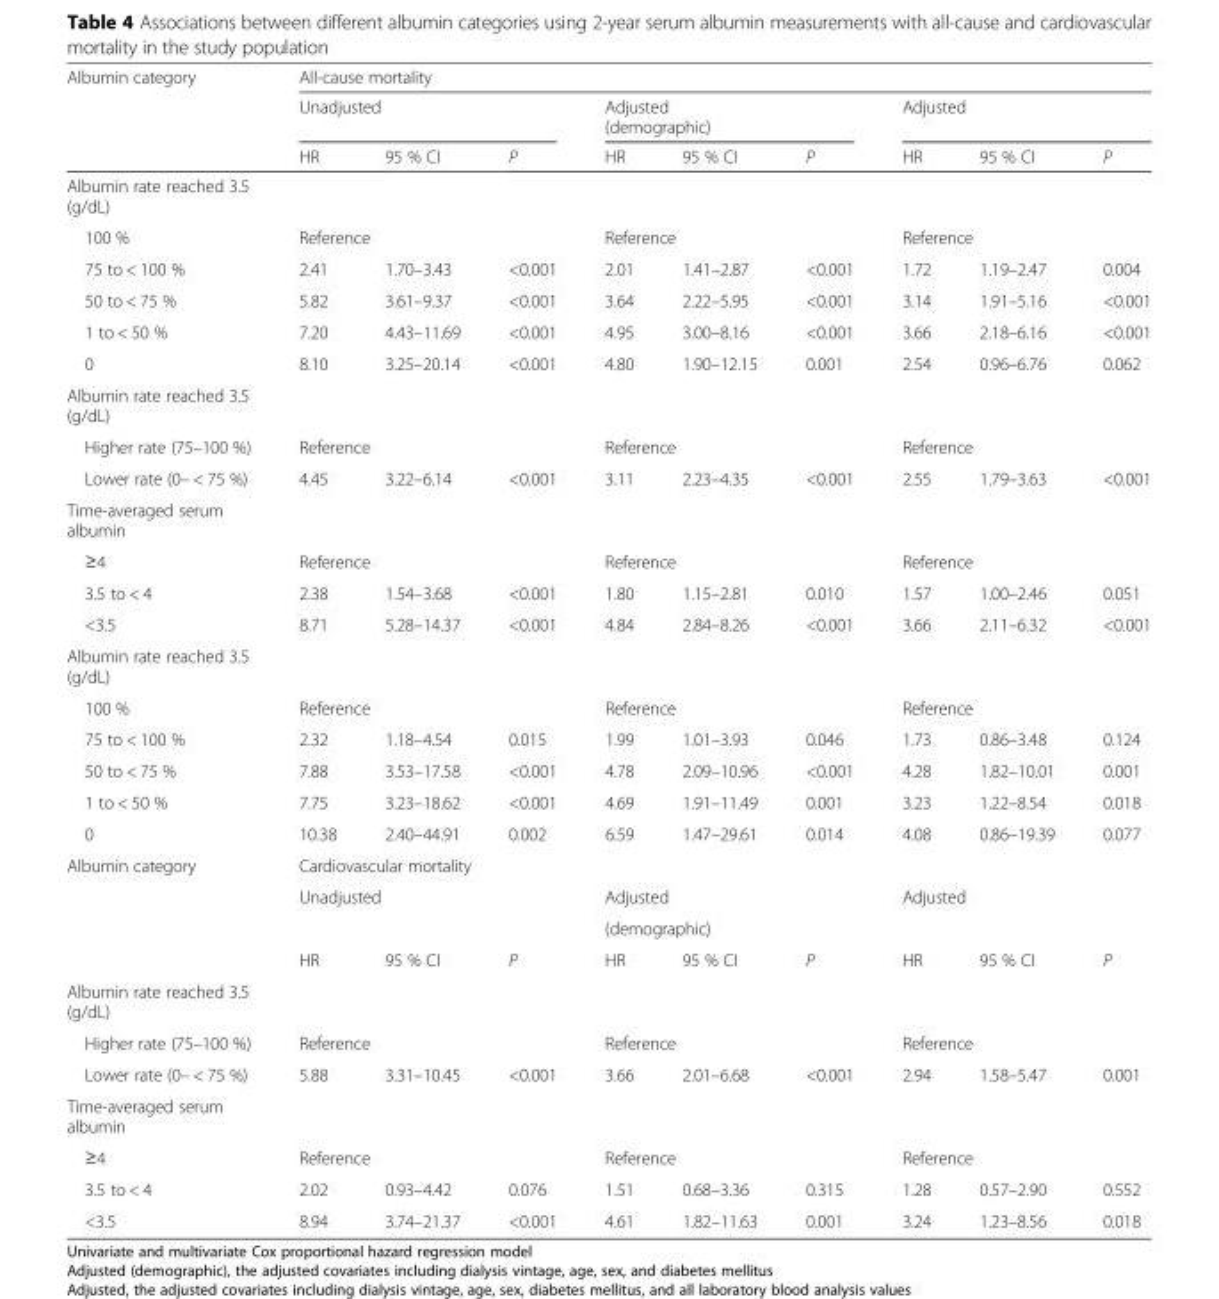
<table><thead><tr><td rowspan="4">Albumin category</td><td colspan="9">All-cause mortality</td></tr><tr><td rowspan="2" colspan="3">Unadjusted</td><td rowspan="2" colspan="3">Adjusted (demographic)</td><td rowspan="2" colspan="3">Adjusted</td></tr><tr></tr><tr><td>HR</td><td>95 % CI</td><td>P</td><td>HR</td><td>95 % CI</td><td>P</td><td>HR</td><td>95 % CI</td><td>P</td></tr></thead><tbody><tr><td colspan="10">Albumin rate reached 3.5 (g/dL)</td></tr><tr><td>100 %</td><td colspan="3">Reference</td><td colspan="3">Reference</td><td colspan="3">Reference</td></tr><tr><td>75 to &lt; 100 %</td><td>2.41</td><td>1.70–3.43</td><td>&lt;0.001</td><td>2.01</td><td>1.41–2.87</td><td>&lt;0.001</td><td>1.72</td><td>1.19–2.47</td><td>0.004</td></tr><tr><td>50 to &lt; 75 %</td><td>5.82</td><td>3.61–9.37</td><td>&lt;0.001</td><td>3.64</td><td>2.22–5.95</td><td>&lt;0.001</td><td>3.14</td><td>1.91–5.16</td><td>&lt;0.001</td></tr><tr><td>1 to &lt; 50 %</td><td>7.20</td><td>4.43–11.69</td><td>&lt;0.001</td><td>4.95</td><td>3.00–8.16</td><td>&lt;0.001</td><td>3.66</td><td>2.18–6.16</td><td>&lt;0.001</td></tr><tr><td>0</td><td>8.10</td><td>3.25–20.14</td><td>&lt;0.001</td><td>4.80</td><td>1.90–12.15</td><td>0.001</td><td>2.54</td><td>0.96–6.76</td><td>0.062</td></tr><tr><td colspan="10">Albumin rate reached 3.5 (g/dL)</td></tr><tr><td>Higher rate (75–100 %)</td><td colspan="3">Reference</td><td colspan="3">Reference</td><td colspan="3">Reference</td></tr><tr><td>Lower rate (0– &lt; 75 %)</td><td>4.45</td><td>3.22–6.14</td><td>&lt;0.001</td><td>3.11</td><td>2.23–4.35</td><td>&lt;0.001</td><td>2.55</td><td>1.79–3.63</td><td>&lt;0.001</td></tr><tr><td colspan="10">Time-averaged serum albumin</td></tr><tr><td>≥4</td><td colspan="3">Reference</td><td colspan="3">Reference</td><td colspan="3">Reference</td></tr><tr><td>3.5 to &lt; 4</td><td>2.38</td><td>1.54–3.68</td><td>&lt;0.001</td><td>1.80</td><td>1.15–2.81</td><td>0.010</td><td>1.57</td><td>1.00–2.46</td><td>0.051</td></tr><tr><td>&lt;3.5</td><td>8.71</td><td>5.28–14.37</td><td>&lt;0.001</td><td>4.84</td><td>2.84–8.26</td><td>&lt;0.001</td><td>3.66</td><td>2.11–6.32</td><td>&lt;0.001</td></tr><tr><td colspan="10">Albumin rate reached 3.5 (g/dL)</td></tr><tr><td>100 %</td><td colspan="3">Reference</td><td colspan="3">Reference</td><td colspan="3">Reference</td></tr><tr><td>75 to &lt; 100 %</td><td>2.32</td><td>1.18–4.54</td><td>0.015</td><td>1.99</td><td>1.01–3.93</td><td>0.046</td><td>1.73</td><td>0.86–3.48</td><td>0.124</td></tr><tr><td>50 to &lt; 75 %</td><td>7.88</td><td>3.53–17.58</td><td>&lt;0.001</td><td>4.78</td><td>2.09–10.96</td><td>&lt;0.001</td><td>4.28</td><td>1.82–10.01</td><td>0.001</td></tr><tr><td>1 to &lt; 50 %</td><td>7.75</td><td>3.23–18.62</td><td>&lt;0.001</td><td>4.69</td><td>1.91–11.49</td><td>0.001</td><td>3.23</td><td>1.22–8.54</td><td>0.018</td></tr><tr><td>0</td><td>10.38</td><td>2.40–44.91</td><td>0.002</td><td>6.59</td><td>1.47–29.61</td><td>0.014</td><td>4.08</td><td>0.86–19.39</td><td>0.077</td></tr><tr><td rowspan="4">Albumin category</td><td colspan="9">Cardiovascular mortality</td></tr><tr><td rowspan="2" colspan="3">Unadjusted</td><td colspan="3">Adjusted</td><td rowspan="2" colspan="3">Adjusted</td></tr><tr><td colspan="3">(demographic)</td></tr><tr><td>HR</td><td>95 % CI</td><td>P</td><td>HR</td><td>95 % CI</td><td>P</td><td>HR</td><td>95 % CI</td><td>P</td></tr><tr><td colspan="10">Albumin rate reached 3.5 (g/dL)</td></tr><tr><td>Higher rate (75–100 %)</td><td colspan="3">Reference</td><td colspan="3">Reference</td><td colspan="3">Reference</td></tr><tr><td>Lower rate (0– &lt; 75 %)</td><td>5.88</td><td>3.31–10.45</td><td>&lt;0.001</td><td>3.66</td><td>2.01–6.68</td><td>&lt;0.001</td><td>2.94</td><td>1.58–5.47</td><td>0.001</td></tr><tr><td colspan="10">Time-averaged serum albumin</td></tr><tr><td>≥4</td><td colspan="3">Reference</td><td colspan="3">Reference</td><td colspan="3">Reference</td></tr><tr><td>3.5 to &lt; 4</td><td>2.02</td><td>0.93–4.42</td><td>0.076</td><td>1.51</td><td>0.68–3.36</td><td>0.315</td><td>1.28</td><td>0.57–2.90</td><td>0.552</td></tr><tr><td>&lt;3.5</td><td>8.94</td><td>3.74–21.37</td><td>&lt;0.001</td><td>4.61</td><td>1.82–11.63</td><td>0.001</td><td>3.24</td><td>1.23–8.56</td><td>0.018</td></tr></tbody></table>